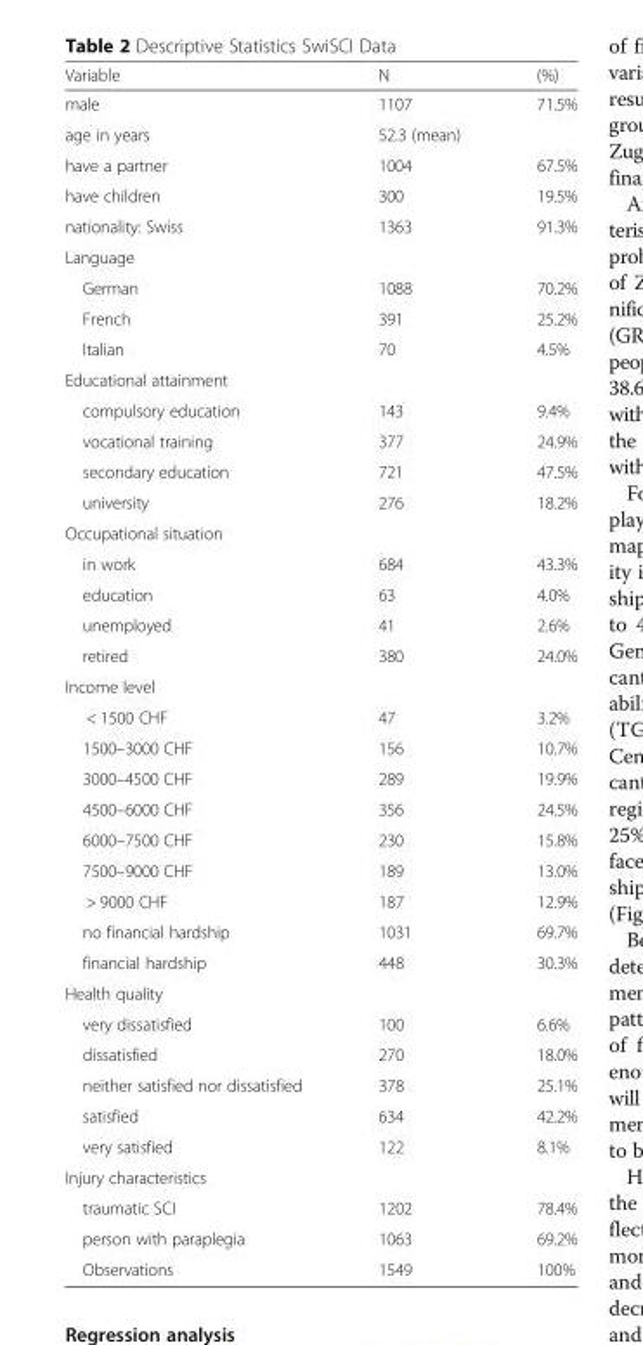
<table><thead><tr><td>Variable</td><td>N</td><td>(%)</td></tr></thead><tbody><tr><td>male</td><td>1107</td><td>71.5%</td></tr><tr><td>age in years</td><td>52.3 (mean)</td><td></td></tr><tr><td>have a partner</td><td>1004</td><td>67.5%</td></tr><tr><td>have children</td><td>300</td><td>19.5%</td></tr><tr><td>nationality: Swiss</td><td>1363</td><td>91.3%</td></tr><tr><td colspan="3">Language</td></tr><tr><td>German</td><td>1088</td><td>70.2%</td></tr><tr><td>French</td><td>391</td><td>25.2%</td></tr><tr><td>Italian</td><td>70</td><td>4.5%</td></tr><tr><td colspan="3">Educational attainment</td></tr><tr><td>compulsory education</td><td>143</td><td>9.4%</td></tr><tr><td>vocational training</td><td>377</td><td>24.9%</td></tr><tr><td>secondary education</td><td>721</td><td>47.5%</td></tr><tr><td>university</td><td>276</td><td>18.2%</td></tr><tr><td colspan="3">Occupational situation</td></tr><tr><td>in work</td><td>684</td><td>43.3%</td></tr><tr><td>education</td><td>63</td><td>4.0%</td></tr><tr><td>unemployed</td><td>41</td><td>2.6%</td></tr><tr><td>retired</td><td>380</td><td>24.0%</td></tr><tr><td colspan="3">Income level</td></tr><tr><td>&lt; 1500 CHF</td><td>47</td><td>3.2%</td></tr><tr><td>1500–3000 CHF</td><td>156</td><td>10.7%</td></tr><tr><td>3000–4500 CHF</td><td>289</td><td>19.9%</td></tr><tr><td>4500–6000 CHF</td><td>356</td><td>24.5%</td></tr><tr><td>6000–7500 CHF</td><td>230</td><td>15.8%</td></tr><tr><td>7500–9000 CHF</td><td>189</td><td>13.0%</td></tr><tr><td>&gt; 9000 CHF</td><td>187</td><td>12.9%</td></tr><tr><td>no financial hardship</td><td>1031</td><td>69.7%</td></tr><tr><td>financial hardship</td><td>448</td><td>30.3%</td></tr><tr><td colspan="3">Health quality</td></tr><tr><td>very dissatisfied</td><td>100</td><td>6.6%</td></tr><tr><td>dissatisfied</td><td>270</td><td>18.0%</td></tr><tr><td>neither satisfied nor dissatisfied</td><td>378</td><td>25.1%</td></tr><tr><td>satisfied</td><td>634</td><td>42.2%</td></tr><tr><td>very satisfied</td><td>122</td><td>8.1%</td></tr><tr><td colspan="3">Injury characteristics</td></tr><tr><td>traumatic SCI</td><td>1202</td><td>78.4%</td></tr><tr><td>person with paraplegia</td><td>1063</td><td>69.2%</td></tr><tr><td>Observations</td><td>1549</td><td>100%</td></tr></tbody></table>